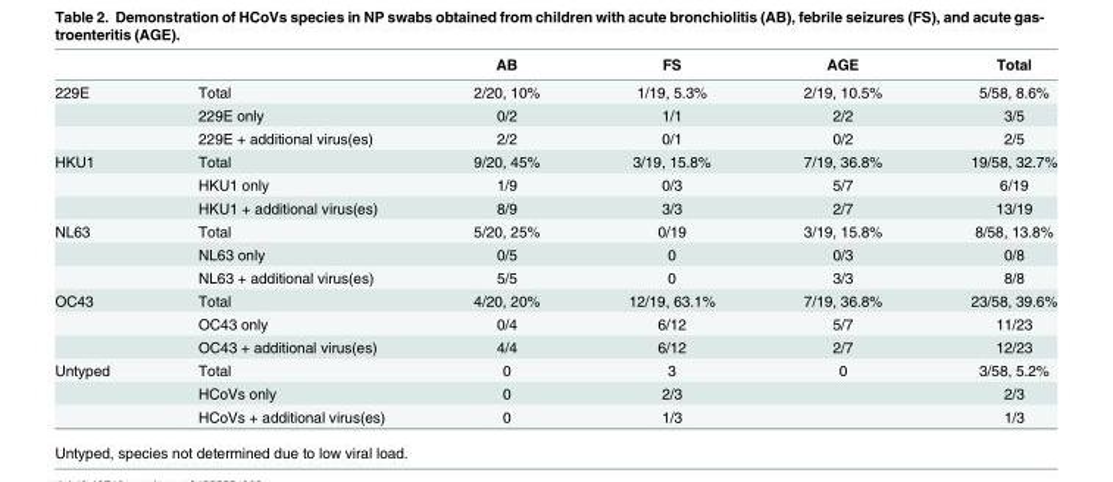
<table><thead><tr><td></td><td></td><td>AB</td><td>FS</td><td>AGE</td><td>Total</td></tr></thead><tbody><tr><td rowspan="3">229E</td><td>Total</td><td>2/20, 10%</td><td>1/19, 5.3%</td><td>2/19, 10.5%</td><td>5/58, 8.6%</td></tr><tr><td>229E only</td><td>0/2</td><td>1/1</td><td>2/2</td><td>3/5</td></tr><tr><td>229E + additional virus(es)</td><td>2/2</td><td>0/1</td><td>0/2</td><td>2/5</td></tr><tr><td rowspan="3">HKU1</td><td>Total</td><td>9/20, 45%</td><td>3/19, 15.8%</td><td>7/19, 36.8%</td><td>19/58, 32.7%</td></tr><tr><td>HKU1 only</td><td>1/9</td><td>0/3</td><td>5/7</td><td>6/19</td></tr><tr><td>HKU1 + additional virus(es)</td><td>8/9</td><td>3/3</td><td>2/7</td><td>13/19</td></tr><tr><td rowspan="3">NL63</td><td>Total</td><td>5/20, 25%</td><td>0/19</td><td>3/19, 15.8%</td><td>8/58, 13.8%</td></tr><tr><td>NL63 only</td><td>0/5</td><td>0</td><td>0/3</td><td>0/8</td></tr><tr><td>NL63 + additional virus(es)</td><td>5/5</td><td>0</td><td>3/3</td><td>8/8</td></tr><tr><td rowspan="3">OC43</td><td>Total</td><td>4/20, 20%</td><td>12/19, 63.1%</td><td>7/19, 36.8%</td><td>23/58, 39.6%</td></tr><tr><td>OC43 only</td><td>0/4</td><td>6/12</td><td>5/7</td><td>11/23</td></tr><tr><td>OC43 + additional virus(es)</td><td>4/4</td><td>6/12</td><td>2/7</td><td>12/23</td></tr><tr><td rowspan="3">Untyped</td><td>Total</td><td>0</td><td>3</td><td>0</td><td>3/58, 5.2%</td></tr><tr><td>HCoVs only</td><td>0</td><td>2/3</td><td></td><td>2/3</td></tr><tr><td>HCoVs + additional virus(es)</td><td>0</td><td>1/3</td><td></td><td>1/3</td></tr></tbody></table>